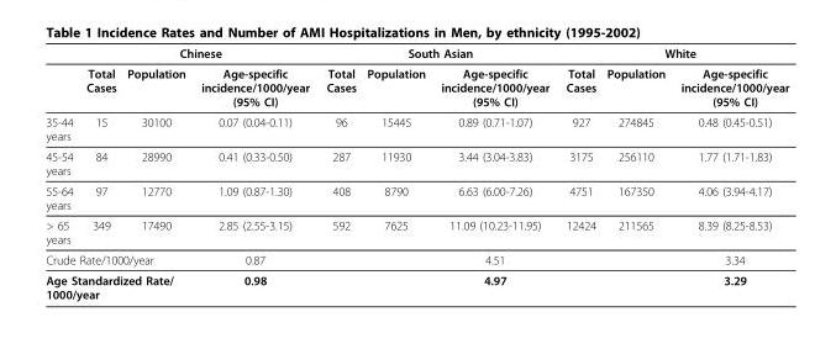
<table><thead><tr><td rowspan="2"></td><td colspan="3">Chinese</td><td colspan="3">South Asian</td><td colspan="3">White</td></tr><tr><td>Total Cases</td><td>Population</td><td>Age-specific incidence/1000/year (95% CI)</td><td>Total Cases</td><td>Population</td><td>Age-specific incidence/1000/year (95% CI)</td><td>Total Cases</td><td>Population</td><td>Age-specific incidence/1000/year (95% CI)</td></tr></thead><tbody><tr><td>35-44 years</td><td>15</td><td>30100</td><td>0.07 (0.04-0.11)</td><td>96</td><td>15445</td><td>0.89 (0.71-1.07)</td><td>927</td><td>274845</td><td>0.48 (0.45-0.51)</td></tr><tr><td>45-54 years</td><td>84</td><td>28990</td><td>0.41 (0.33-0.50)</td><td>287</td><td>11930</td><td>3.44 (3.04-3.83)</td><td>3175</td><td>256110</td><td>1.77 (1.71-1.83)</td></tr><tr><td>55-64 years</td><td>97</td><td>12770</td><td>1.09 (0.87-1.30)</td><td>408</td><td>8790</td><td>6.63 (6.00-7.26)</td><td>4751</td><td>167350</td><td>4.06 (3.94-4.17)</td></tr><tr><td>&gt; 65 years</td><td>349</td><td>17490</td><td>2.85 (2.55-3.15)</td><td>592</td><td>7625</td><td>11.09 (10.23-11.95)</td><td>12424</td><td>211565</td><td>8.39 (8.25-8.53)</td></tr><tr><td colspan="3">Crude Rate/1000/year</td><td>0.87</td><td></td><td></td><td>4.51</td><td></td><td></td><td>3.34</td></tr><tr><td colspan="3">Age Standardized Rate/ 1000/year</td><td>0.98</td><td></td><td></td><td>4.97</td><td></td><td></td><td>3.29</td></tr></tbody></table>